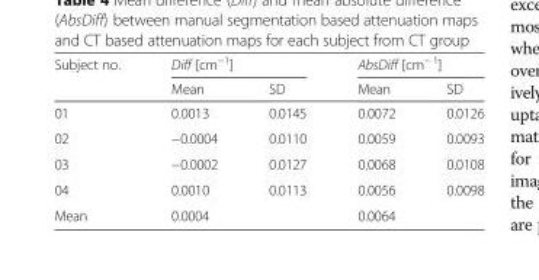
<table><thead><tr><td rowspan="2">Subject no.</td><td colspan="2">Diff [cm<sup>−1</sup>]</td><td colspan="2">AbsDiff [cm<sup>− 1</sup>]</td></tr><tr><td>Mean</td><td>SD</td><td>Mean</td><td>SD</td></tr></thead><tbody><tr><td>01</td><td>0.0013</td><td>0.0145</td><td>0.0072</td><td>0.0126</td></tr><tr><td>02</td><td>−0.0004</td><td>0.0110</td><td>0.0059</td><td>0.0093</td></tr><tr><td>03</td><td>−0.0002</td><td>0.0127</td><td>0.0068</td><td>0.0108</td></tr><tr><td>04</td><td>0.0010</td><td>0.0113</td><td>0.0056</td><td>0.0098</td></tr><tr><td>Mean</td><td>0.0004</td><td></td><td>0.0064</td><td></td></tr></tbody></table>